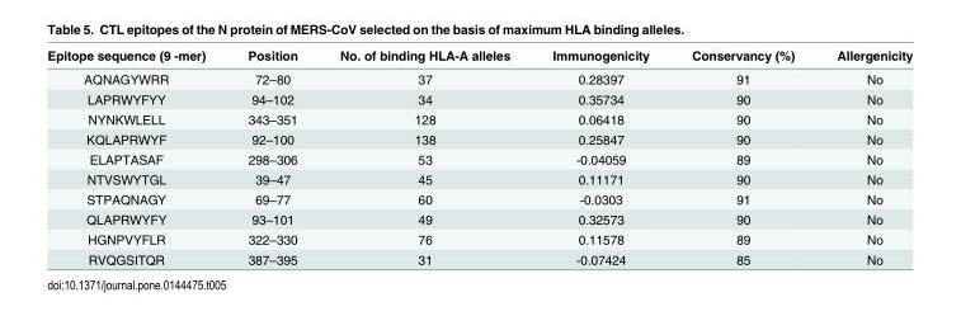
<table><thead><tr><td>Epitope sequence (9 -mer)</td><td>Position</td><td>No. of binding HLA-A alleles</td><td>Immunogenicity</td><td>Conservancy (%)</td><td>Allergenicity</td></tr></thead><tbody><tr><td>AQNAGYWRR</td><td>72–80</td><td>37</td><td>0.28397</td><td>91</td><td>No</td></tr><tr><td>LAPRWYFYY</td><td>94–102</td><td>34</td><td>0.35734</td><td>90</td><td>No</td></tr><tr><td>NYNKWLELL</td><td>343–351</td><td>128</td><td>0.06418</td><td>90</td><td>No</td></tr><tr><td>KQLAPRWYF</td><td>92–100</td><td>138</td><td>0.25847</td><td>90</td><td>No</td></tr><tr><td>ELAPTASAF</td><td>298–306</td><td>53</td><td>-0.04059</td><td>89</td><td>No</td></tr><tr><td>NTVSWYTGL</td><td>39–47</td><td>45</td><td>0.11171</td><td>90</td><td>No</td></tr><tr><td>STPAQNAGY</td><td>69–77</td><td>60</td><td>-0.0303</td><td>91</td><td>No</td></tr><tr><td>QLAPRWYFY</td><td>93–101</td><td>49</td><td>0.32573</td><td>90</td><td>No</td></tr><tr><td>HGNPVYFLR</td><td>322–330</td><td>76</td><td>0.11578</td><td>89</td><td>No</td></tr><tr><td>RVQGSITQR</td><td>387–395</td><td>31</td><td>-0.07424</td><td>85</td><td>No</td></tr></tbody></table>